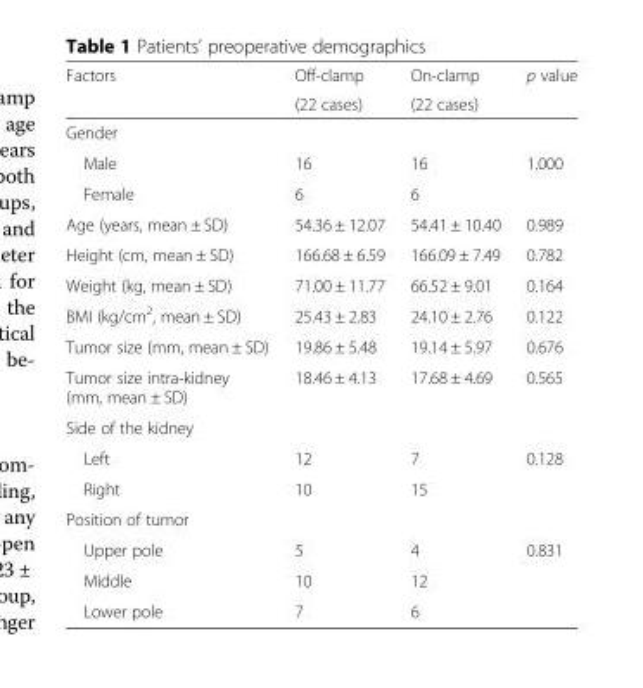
<table><thead><tr><td rowspan="2">Factors</td><td rowspan="2">Off-clamp (22 cases)</td><td rowspan="2">On-clamp (22 cases)</td><td rowspan="2">p value</td></tr><tr></tr></thead><tbody><tr><td colspan="4">Gender</td></tr><tr><td>Male</td><td>16</td><td>16</td><td>1.000</td></tr><tr><td>Female</td><td>6</td><td>6</td><td></td></tr><tr><td>Age (years, mean ± SD)</td><td>54.36 ± 12.07</td><td>54.41 ± 10.40</td><td>0.989</td></tr><tr><td>Height (cm, mean ± SD)</td><td>166.68 ± 6.59</td><td>166.09 ± 7.49</td><td>0.782</td></tr><tr><td>Weight (kg, mean ± SD)</td><td>71.00 ± 11.77</td><td>66.52 ± 9.01</td><td>0.164</td></tr><tr><td>BMI (kg/cm<sup>2</sup>, mean ± SD)</td><td>25.43 ± 2.83</td><td>24.10 ± 2.76</td><td>0.122</td></tr><tr><td>Tumor size (mm, mean ± SD)</td><td>19.86 ± 5.48</td><td>19.14 ± 5.97</td><td>0.676</td></tr><tr><td>Tumor size intra-kidney (mm, mean ± SD)</td><td>18.46 ± 4.13</td><td>17.68 ± 4.69</td><td>0.565</td></tr><tr><td colspan="4">Side of the kidney</td></tr><tr><td>Left</td><td>12</td><td>7</td><td>0.128</td></tr><tr><td>Right</td><td>10</td><td>15</td><td></td></tr><tr><td colspan="4">Position of tumor</td></tr><tr><td>Upper pole</td><td>5</td><td>4</td><td>0.831</td></tr><tr><td>Middle</td><td>10</td><td>12</td><td></td></tr><tr><td>Lower pole</td><td>7</td><td>6</td><td></td></tr></tbody></table>